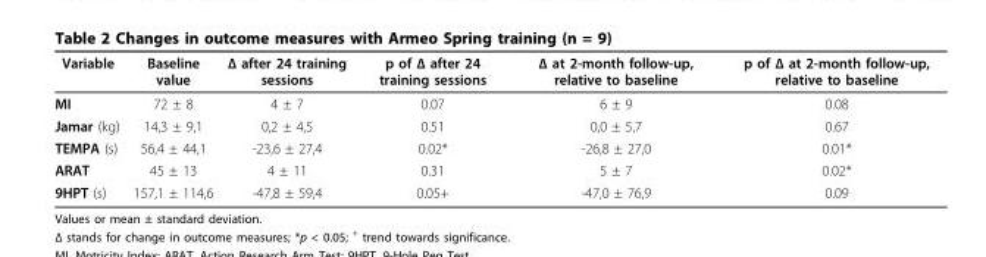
<table><thead><tr><td>Variable</td><td>Baseline value</td><td>Δ after 24 training sessions</td><td>p of Δ after 24 training sessions</td><td>Δ at 2-month follow-up, relative to baseline</td><td>p of Δ at 2-month follow-up, relative to baseline</td></tr></thead><tbody><tr><td>MI</td><td>72 ± 8</td><td>4 ± 7</td><td>0.07</td><td>6 ± 9</td><td>0.08</td></tr><tr><td>Jamar (kg)</td><td>14,3 ± 9,1</td><td>0,2 ± 4,5</td><td>0.51</td><td>0,0 ± 5,7</td><td>0.67</td></tr><tr><td>TEMPA (s)</td><td>56,4 ± 44,1</td><td>-23,6 ± 27,4</td><td>0.02*</td><td>-26,8 ± 27,0</td><td>0.01*</td></tr><tr><td>ARAT</td><td>45 ± 13</td><td>4 ± 11</td><td>0.31</td><td>5 ± 7</td><td>0.02*</td></tr><tr><td>9HPT (s)</td><td>157,1 ± 114,6</td><td>-47,8 ± 59,4</td><td>0.05+</td><td>-47,0 ± 76,9</td><td>0.09</td></tr></tbody></table>